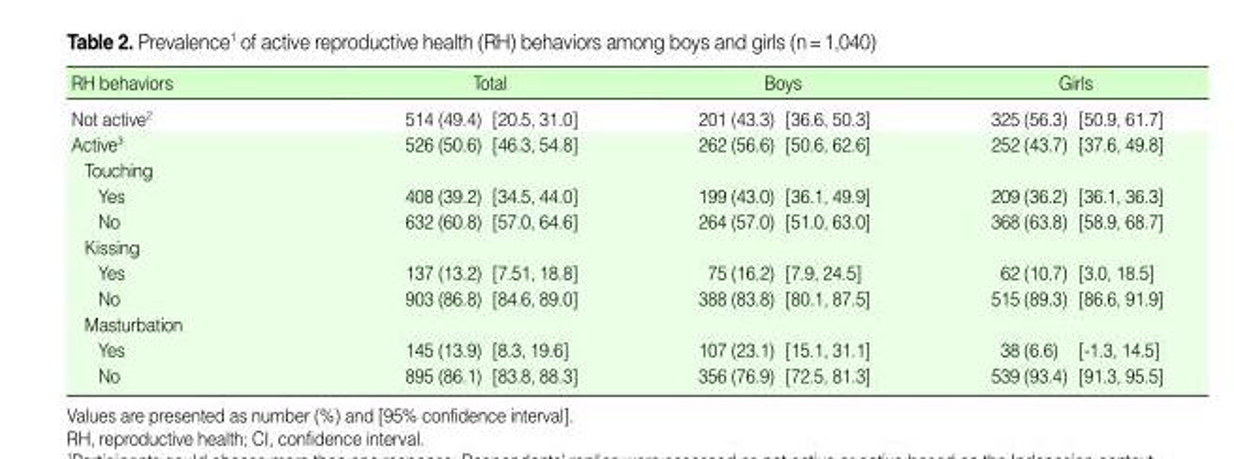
<table><thead><tr><td>RH behaviors</td><td>Total</td><td>Boys</td><td>Girls</td></tr></thead><tbody><tr><td>Not active<sup>2</sup></td><td>514 (49.4) [20.5, 31.0]</td><td>201 (43.3) [36.6, 50.3]</td><td>325 (56.3) [50.9, 61.7]</td></tr><tr><td>Active<sup>3</sup></td><td>526 (50.6) [46.3, 54.8]</td><td>262 (56.6) [50.6, 62.6]</td><td>252 (43.7) [37.6, 49.8]</td></tr><tr><td colspan="4">Touching</td></tr><tr><td>Yes</td><td>408 (39.2) [34.5, 44.0]</td><td>199 (43.0) [36.1, 49.9]</td><td>209 (36.2) [36.1, 36.3]</td></tr><tr><td>No</td><td>632 (60.8) [57.0, 64.6]</td><td>264 (57.0) [51.0, 63.0]</td><td>368 (63.8) [58.9, 68.7]</td></tr><tr><td colspan="4">Kissing</td></tr><tr><td>Yes</td><td>137 (13.2) [7.51, 18.8]</td><td>75 (16.2) [7.9, 24.5]</td><td>62 (10.7) [3.0, 18.5]</td></tr><tr><td>No</td><td>903 (86.8) [84.6, 89.0]</td><td>388 (83.8) [80.1, 87.5]</td><td>515 (89.3) [86.6, 91.9]</td></tr><tr><td colspan="4">Masturbation</td></tr><tr><td>Yes</td><td>145 (13.9) [8.3, 19.6]</td><td>107 (23.1) [15.1, 31.1]</td><td>38 (6.6) [-1.3, 14.5]</td></tr><tr><td>No</td><td>895 (86.1) [83.8, 88.3]</td><td>356 (76.9) [72.5, 81.3]</td><td>539 (93.4) [91.3, 95.5]</td></tr></tbody></table>